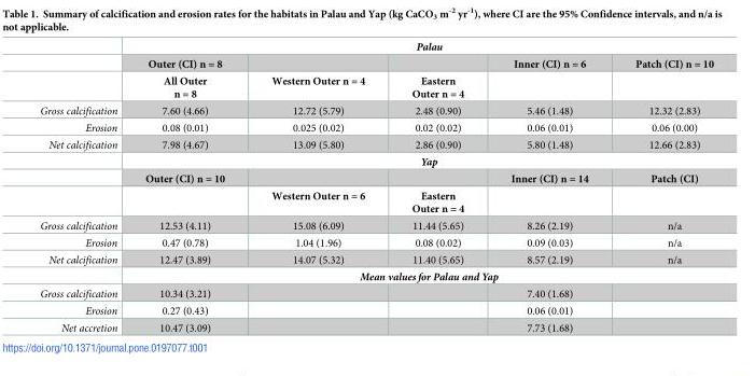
<table><thead><tr><td rowspan="2"></td><td colspan="5">Palau</td></tr><tr><td>Outer (CI) n = 8</td><td></td><td></td><td>Inner (CI) n = 6</td><td>Patch (CI) n = 10</td></tr></thead><tbody><tr><td></td><td>All Outer n = 8</td><td>Western Outer n = 4</td><td>Eastern Outer n = 4</td><td></td><td></td></tr><tr><td>Gross calcification</td><td>7.60 (4.66)</td><td>12.72 (5.79)</td><td>2.48 (0.90)</td><td>5.46 (1.48)</td><td>12.32 (2.83)</td></tr><tr><td>Erosion</td><td>0.08 (0.01)</td><td>0.025 (0.02)</td><td>0.02 (0.02)</td><td>0.06 (0.01)</td><td>0.06 (0.00)</td></tr><tr><td rowspan="4">Net calcification</td><td>7.98 (4.67)</td><td>13.09 (5.80)</td><td>2.86 (0.90)</td><td>5.80 (1.48)</td><td>12.66 (2.83)</td></tr><tr><td colspan="5">Yap</td></tr><tr><td>Outer (CI) n = 10</td><td></td><td></td><td>Inner (CI) n = 14</td><td>Patch (CI)</td></tr><tr><td></td><td>Western Outer n = 6</td><td>Eastern Outer n = 4</td><td></td><td></td></tr><tr><td>Gross calcification</td><td>12.53 (4.11)</td><td>15.08 (6.09)</td><td>11.44 (5.65)</td><td>8.26 (2.19)</td><td>n/a</td></tr><tr><td>Erosion</td><td>0.47 (0.78)</td><td>1.04 (1.96)</td><td>0.08 (0.02)</td><td>0.09 (0.03)</td><td>n/a</td></tr><tr><td rowspan="2">Net calcification</td><td>12.47 (3.89)</td><td>14.07 (5.32)</td><td>11.40 (5.65)</td><td>8.57 (2.19)</td><td>n/a</td></tr><tr><td colspan="5">Mean values for Palau and Yap</td></tr><tr><td>Gross calcification</td><td>10.34 (3.21)</td><td></td><td></td><td>7.40 (1.68)</td><td></td></tr><tr><td>Erosion</td><td>0.27 (0.43)</td><td></td><td></td><td>0.06 (0.01)</td><td></td></tr><tr><td>Net accretion</td><td>10.47 (3.09)</td><td></td><td></td><td>7.73 (1.68)</td><td></td></tr></tbody></table>